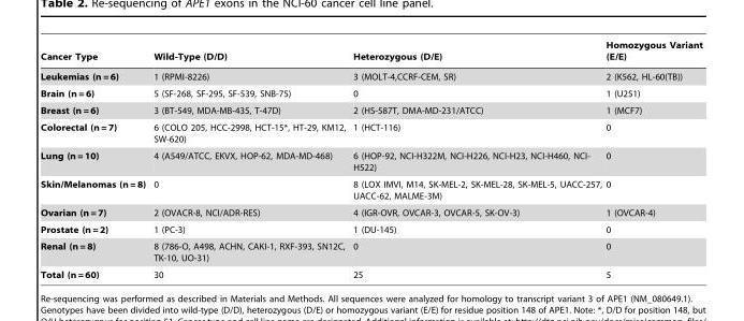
<table><thead><tr><td>Cancer Type</td><td>Wild-Type (D/D)</td><td>Heterozygous (D/E)</td><td>Homozygous Variant (E/E)</td></tr></thead><tbody><tr><td>Leukemias (n = 6)</td><td>1 (RPMI-8226)</td><td>3 (MOLT-4,CCRF-CEM, SR)</td><td>2 (K562, HL-60(TB))</td></tr><tr><td>Brain (n = 6)</td><td>5 (SF-268, SF-295, SF-539, SNB-75)</td><td>0</td><td>1 (U251)</td></tr><tr><td>Breast (n = 6)</td><td>3 (BT-549, MDA-MB-435, T-47D)</td><td>2 (HS-587T, DMA-MD-231/ATCC)</td><td>1 (MCF7)</td></tr><tr><td>Colorectal (n = 7)</td><td>6 (COLO 205, HCC-2998, HCT-15*, HT-29, KM12, SW-620)</td><td>1 (HCT-116)</td><td>0</td></tr><tr><td>Lung (n = 10)</td><td>4 (A549/ATCC, EKVX, HOP-62, MDA-MD-468)</td><td>6 (HOP-92, NCI-H322M, NCI-H226, NCI-H23, NCI-H460, NCI- H522)</td><td>0</td></tr><tr><td>Skin/Melanomas (n = 8)</td><td>0</td><td>8 (LOX IMVI, M14, SK-MEL-2, SK-MEL-28, SK-MEL-5, UACC-257, UACC-62, MALME-3M)</td><td>0</td></tr><tr><td>Ovarian (n = 7)</td><td>2 (OVACR-8, NCI/ADR-RES)</td><td>4 (IGR-OVR, OVCAR-3, OVCAR-5, SK-OV-3)</td><td>1 (OVCAR-4)</td></tr><tr><td>Prostate (n = 2)</td><td>1 (PC-3)</td><td>1 (DU-145)</td><td>0</td></tr><tr><td>Renal (n = 8)</td><td>8 (786-O, A498, ACHN, CAKI-1, RXF-393, SN12C, TK-10, UO-31)</td><td>0</td><td>0</td></tr><tr><td>Total (n = 60)</td><td>30</td><td>25</td><td>5</td></tr></tbody></table>